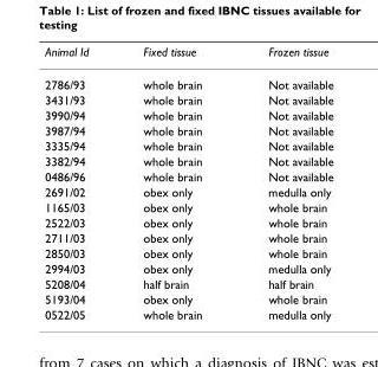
<table><thead><tr><td>Animal Id</td><td>Fixed tissue</td><td>Frozen tissue</td></tr></thead><tbody><tr><td>2786/93</td><td>whole brain</td><td>Not available</td></tr><tr><td>3431/93</td><td>whole brain</td><td>Not available</td></tr><tr><td>3990/94</td><td>whole brain</td><td>Not available</td></tr><tr><td>3987/94</td><td>whole brain</td><td>Not available</td></tr><tr><td>3335/94</td><td>whole brain</td><td>Not available</td></tr><tr><td>3382/94</td><td>whole brain</td><td>Not available</td></tr><tr><td>0486/96</td><td>whole brain</td><td>Not available</td></tr><tr><td>2691/02</td><td>obex only</td><td>medulla only</td></tr><tr><td>1165/03</td><td>obex only</td><td>whole brain</td></tr><tr><td>2522/03</td><td>obex only</td><td>whole brain</td></tr><tr><td>2711/03</td><td>obex only</td><td>whole brain</td></tr><tr><td>2850/03</td><td>obex only</td><td>whole brain</td></tr><tr><td>2994/03</td><td>obex only</td><td>medulla only</td></tr><tr><td>5208/04</td><td>half brain</td><td>half brain</td></tr><tr><td>5193/04</td><td>obex only</td><td>whole brain</td></tr><tr><td>0522/05</td><td>whole brain</td><td>medulla only</td></tr></tbody></table>